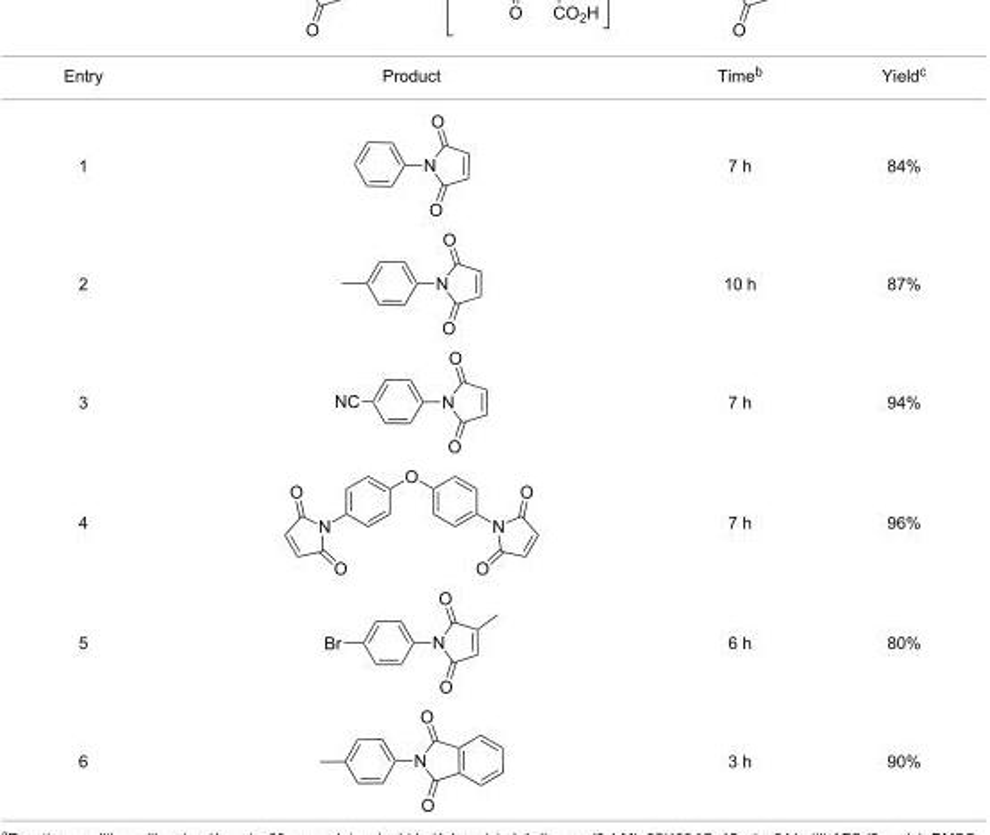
<table><tbody><tr><td>Entry</td><td>Product</td><td>Time<sup>b</sup></td><td>Yield<sup>c</sup></td></tr><tr><td>1</td><td></td><td>7 h</td><td>84%</td></tr><tr><td>2</td><td></td><td>10 h</td><td>87%</td></tr><tr><td>3</td><td></td><td>7 h</td><td>94%</td></tr><tr><td>4</td><td></td><td>7 h</td><td>96%</td></tr><tr><td>5</td><td></td><td>6 h</td><td>80%</td></tr><tr><td>6</td><td></td><td>3 h</td><td>90%</td></tr></tbody></table>